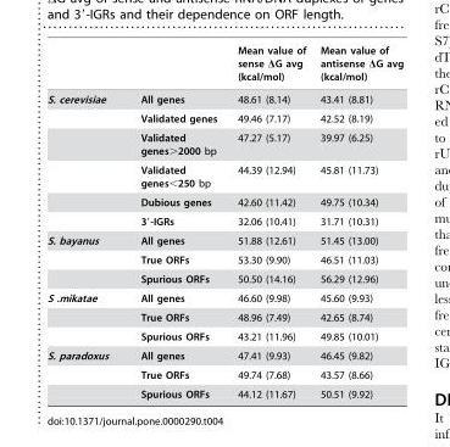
<table><thead><tr><td></td><td></td><td>Mean value of sense ΔG avg (kcal/mol)</td><td>Mean value of antisense ΔG avg (kcal/mol)</td></tr></thead><tbody><tr><td rowspan="6">S. cerevisiae</td><td>All genes</td><td>48.61 (8.14)</td><td>43.41 (8.81)</td></tr><tr><td>Validated genes</td><td>49.46 (7.17)</td><td>42.52 (8.19)</td></tr><tr><td>Validated genes&gt;2000 bp</td><td>47.27 (5.17)</td><td>39.97 (6.25)</td></tr><tr><td>Validated genes&lt;250 bp</td><td>44.39 (12.94)</td><td>45.81 (11.73)</td></tr><tr><td>Dubious genes</td><td>42.60 (11.42)</td><td>49.75 (10.34)</td></tr><tr><td>3′-IGRs</td><td>32.06 (10.41)</td><td>31.71 (10.31)</td></tr><tr><td rowspan="3">S. bayanus</td><td>All genes</td><td>51.88 (12.61)</td><td>51.45 (13.00)</td></tr><tr><td>True ORFs</td><td>53.30 (9.90)</td><td>46.51 (11.03)</td></tr><tr><td>Spurious ORFs</td><td>50.50 (14.16)</td><td>56.29 (12.96)</td></tr><tr><td rowspan="3">S .mikatae</td><td>All genes</td><td>46.60 (9.98)</td><td>45.60 (9.93)</td></tr><tr><td>True ORFs</td><td>48.96 (7.49)</td><td>42.65 (8.74)</td></tr><tr><td>Spurious ORFs</td><td>43.21 (11.96)</td><td>49.85 (10.01)</td></tr><tr><td rowspan="3">S. paradoxus</td><td>All genes</td><td>47.41 (9.93)</td><td>46.45 (9.82)</td></tr><tr><td>True ORFs</td><td>49.74 (7.68)</td><td>43.57 (8.66)</td></tr><tr><td>Spurious ORFs</td><td>44.12 (11.67)</td><td>50.51 (9.92)</td></tr></tbody></table>